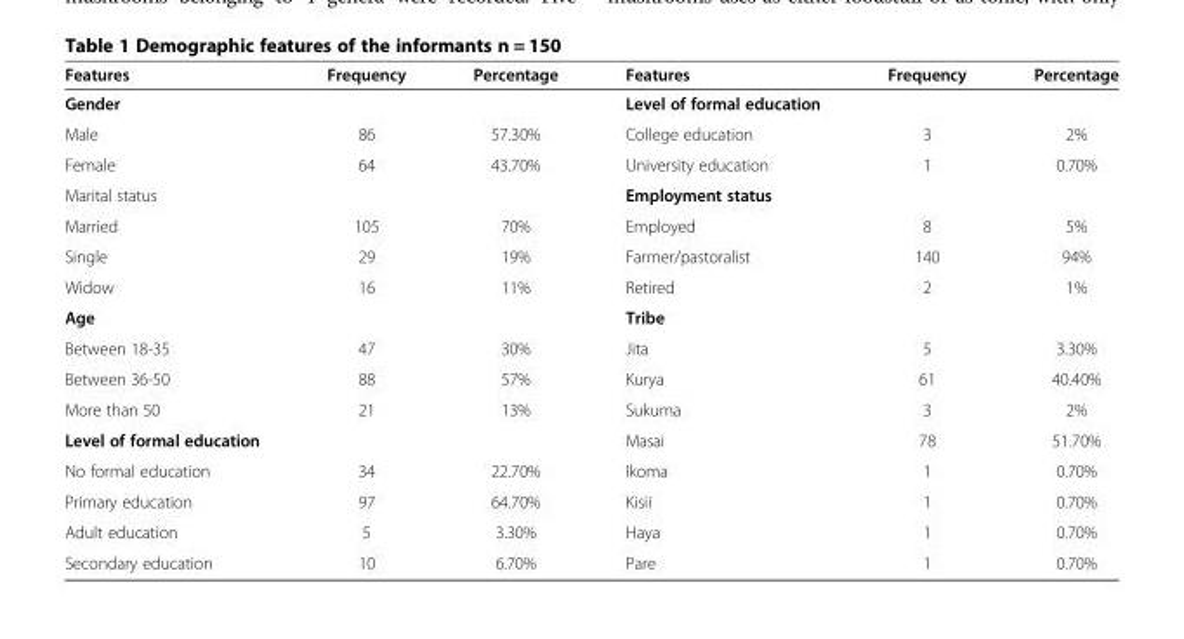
<table><thead><tr><td>Features</td><td>Frequency</td><td>Percentage</td><td>Features</td><td>Frequency</td><td>Percentage</td></tr></thead><tbody><tr><td>Gender</td><td></td><td></td><td colspan="2">Level of formal education</td><td></td></tr><tr><td>Male</td><td>86</td><td>57.30%</td><td>College education</td><td>3</td><td>2%</td></tr><tr><td>Female</td><td>64</td><td>43.70%</td><td>University education</td><td>1</td><td>0.70%</td></tr><tr><td>Marital status</td><td></td><td></td><td>Employment status</td><td></td><td></td></tr><tr><td>Married</td><td>105</td><td>70%</td><td>Employed</td><td>8</td><td>5%</td></tr><tr><td>Single</td><td>29</td><td>19%</td><td>Farmer/pastoralist</td><td>140</td><td>94%</td></tr><tr><td>Widow</td><td>16</td><td>11%</td><td>Retired</td><td>2</td><td>1%</td></tr><tr><td>Age</td><td></td><td></td><td>Tribe</td><td></td><td></td></tr><tr><td>Between 18-35</td><td>47</td><td>30%</td><td>Jita</td><td>5</td><td>3.30%</td></tr><tr><td>Between 36-50</td><td>88</td><td>57%</td><td>Kurya</td><td>61</td><td>40.40%</td></tr><tr><td>More than 50</td><td>21</td><td>13%</td><td>Sukuma</td><td>3</td><td>2%</td></tr><tr><td colspan="3">Level of formal education</td><td>Masai</td><td>78</td><td>51.70%</td></tr><tr><td>No formal education</td><td>34</td><td>22.70%</td><td>Ikoma</td><td>1</td><td>0.70%</td></tr><tr><td>Primary education</td><td>97</td><td>64.70%</td><td>Kisii</td><td>1</td><td>0.70%</td></tr><tr><td>Adult education</td><td>5</td><td>3.30%</td><td>Haya</td><td>1</td><td>0.70%</td></tr><tr><td>Secondary education</td><td>10</td><td>6.70%</td><td>Pare</td><td>1</td><td>0.70%</td></tr></tbody></table>